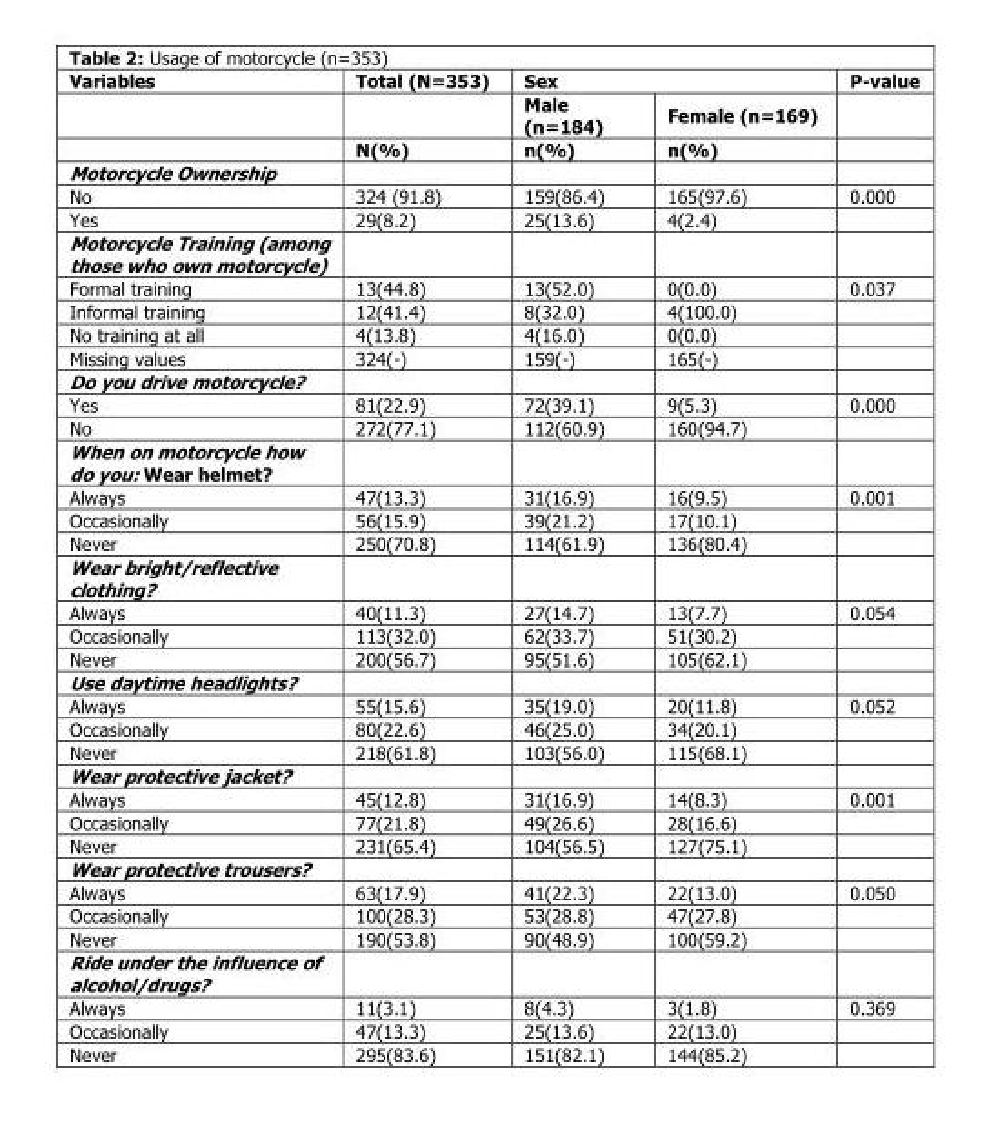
<table><thead><tr><td rowspan="3">Variables</td><td rowspan="3">Total (N=353) N(%)</td><td colspan="2">Sex</td><td rowspan="3">P-value</td></tr><tr><td rowspan="2">Male (n=184) n(%)</td><td rowspan="2">Female (n=169) n(%)</td></tr><tr></tr></thead><tbody><tr><td colspan="5">Motorcycle Ownership</td></tr><tr><td>No</td><td>324 (91.8)</td><td>159(86.4)</td><td>165(97.6)</td><td>0.000</td></tr><tr><td>Yes</td><td>29(8.2)</td><td>25(13.6)</td><td>4(2.4)</td><td></td></tr><tr><td colspan="5">Motorcycle Training (among those who own motorcycle)</td></tr><tr><td>Formal training</td><td>13(44.8)</td><td>13(52.0)</td><td>0(0.0)</td><td>0.037</td></tr><tr><td>Informal training</td><td>12(41.4)</td><td>8(32.0)</td><td>4(100.0)</td><td></td></tr><tr><td>No training at all</td><td>4(13.8)</td><td>4(16.0)</td><td>0(0.0)</td><td></td></tr><tr><td>Missing values</td><td>324(-)</td><td>159(-)</td><td>165(-)</td><td></td></tr><tr><td colspan="5">Do you drive motorcycle?</td></tr><tr><td>Yes</td><td>81(22.9)</td><td>72(39.1)</td><td>9(5.3)</td><td>0.000</td></tr><tr><td>No</td><td>272(77.1)</td><td>112(60.9)</td><td>160(94.7)</td><td></td></tr><tr><td colspan="5">When on motorcycle how do you: Wear helmet?</td></tr><tr><td>Always</td><td>47(13.3)</td><td>31(16.9)</td><td>16(9.5)</td><td>0.001</td></tr><tr><td>Occasionally</td><td>56(15.9)</td><td>39(21.2)</td><td>17(10.1)</td><td></td></tr><tr><td>Never</td><td>250(70.8)</td><td>114(61.9)</td><td>136(80.4)</td><td></td></tr><tr><td colspan="5">Wear bright/reflective clothing?</td></tr><tr><td>Always</td><td>40(11.3)</td><td>27(14.7)</td><td>13(7.7)</td><td>0.054</td></tr><tr><td>Occasionally</td><td>113(32.0)</td><td>62(33.7)</td><td>51(30.2)</td><td></td></tr><tr><td>Never</td><td>200(56.7)</td><td>95(51.6)</td><td>105(62.1)</td><td></td></tr><tr><td colspan="5">Use daytime headlights?</td></tr><tr><td>Always</td><td>55(15.6)</td><td>35(19.0)</td><td>20(11.8)</td><td>0.052</td></tr><tr><td>Occasionally</td><td>80(22.6)</td><td>46(25.0)</td><td>34(20.1)</td><td></td></tr><tr><td>Never</td><td>218(61.8)</td><td>103(56.0)</td><td>115(68.1)</td><td></td></tr><tr><td colspan="5">Wear protective jacket?</td></tr><tr><td>Always</td><td>45(12.8)</td><td>31(16.9)</td><td>14(8.3)</td><td>0.001</td></tr><tr><td>Occasionally</td><td>77(21.8)</td><td>49(26.6)</td><td>28(16.6)</td><td></td></tr><tr><td>Never</td><td>231(65.4)</td><td>104(56.5)</td><td>127(75.1)</td><td></td></tr><tr><td colspan="5">Wear protective trousers?</td></tr><tr><td>Always</td><td>63(17.9)</td><td>41(22.3)</td><td>22(13.0)</td><td>0.050</td></tr><tr><td>Occasionally</td><td>100(28.3)</td><td>53(28.8)</td><td>47(27.8)</td><td></td></tr><tr><td>Never</td><td>190(53.8)</td><td>90(48.9)</td><td>100(59.2)</td><td></td></tr><tr><td colspan="5">Ride under the influence of alcohol/drugs?</td></tr><tr><td>Always</td><td>11(3.1)</td><td>8(4.3)</td><td>3(1.8)</td><td>0.369</td></tr><tr><td>Occasionally</td><td>47(13.3)</td><td>25(13.6)</td><td>22(13.0)</td><td></td></tr><tr><td>Never</td><td>295(83.6)</td><td>151(82.1)</td><td>144(85.2)</td><td></td></tr></tbody></table>